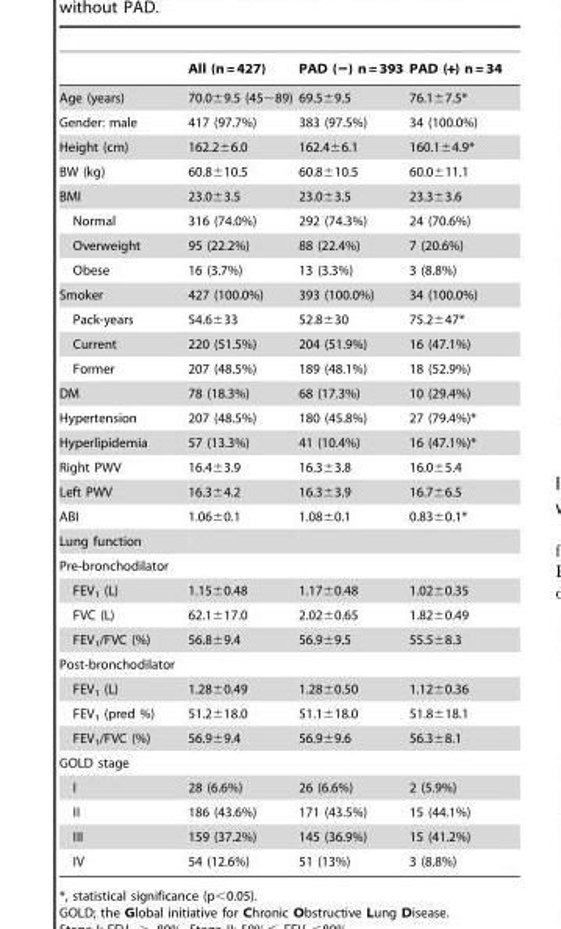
<table><thead><tr><td></td><td>All (n = 427)</td><td>PAD (−) n = 393</td><td>PAD (+) n = 34</td></tr></thead><tbody><tr><td>Age (years)</td><td>70.0±9.5 (45∼89)</td><td>69.5±9.5</td><td>76.1±7.5*</td></tr><tr><td>Gender: male</td><td>417 (97.7%)</td><td>383 (97.5%)</td><td>34 (100.0%)</td></tr><tr><td>Height (cm)</td><td>162.2±6.0</td><td>162.4±6.1</td><td>160.1±4.9*</td></tr><tr><td>BW (kg)</td><td>60.8±10.5</td><td>60.8±10.5</td><td>60.0±11.1</td></tr><tr><td>BMI</td><td>23.0±3.5</td><td>23.0±3.5</td><td>23.3±3.6</td></tr><tr><td>Normal</td><td>316 (74.0%)</td><td>292 (74.3%)</td><td>24 (70.6%)</td></tr><tr><td>Overweight</td><td>95 (22.2%)</td><td>88 (22.4%)</td><td>7 (20.6%)</td></tr><tr><td>Obese</td><td>16 (3.7%)</td><td>13 (3.3%)</td><td>3 (8.8%)</td></tr><tr><td>Smoker</td><td>427 (100.0%)</td><td>393 (100.0%)</td><td>34 (100.0%)</td></tr><tr><td>Pack-years</td><td>54.6±33</td><td>52.8±30</td><td>75.2±47*</td></tr><tr><td>Current</td><td>220 (51.5%)</td><td>204 (51.9%)</td><td>16 (47.1%)</td></tr><tr><td>Former</td><td>207 (48.5%)</td><td>189 (48.1%)</td><td>18 (52.9%)</td></tr><tr><td>DM</td><td>78 (18.3%)</td><td>68 (17.3%)</td><td>10 (29.4%)</td></tr><tr><td>Hypertension</td><td>207 (48.5%)</td><td>180 (45.8%)</td><td>27 (79.4%)*</td></tr><tr><td>Hyperlipidemia</td><td>57 (13.3%)</td><td>41 (10.4%)</td><td>16 (47.1%)*</td></tr><tr><td>Right PWV</td><td>16.4±3.9</td><td>16.3±3.8</td><td>16.0±5.4</td></tr><tr><td>Left PWV</td><td>16.3±4.2</td><td>16.3±3.9</td><td>16.7±6.5</td></tr><tr><td>ABI</td><td>1.06±0.1</td><td>1.08±0.1</td><td>0.83±0.1*</td></tr><tr><td colspan="4">Lung function</td></tr><tr><td colspan="4">Pre-bronchodilator</td></tr><tr><td>FEV<sub>1</sub> (L)</td><td>1.15±0.48</td><td>1.17±0.48</td><td>1.02±0.35</td></tr><tr><td>FVC (L)</td><td>62.1±17.0</td><td>2.02±0.65</td><td>1.82±0.49</td></tr><tr><td>FEV<sub>1</sub>/FVC (%)</td><td>56.8±9.4</td><td>56.9±9.5</td><td>55.5±8.3</td></tr><tr><td colspan="4">Post-bronchodilator</td></tr><tr><td>FEV<sub>1</sub> (L)</td><td>1.28±0.49</td><td>1.28±0.50</td><td>1.12±0.36</td></tr><tr><td>FEV<sub>1</sub> (pred %)</td><td>51.2±18.0</td><td>51.1±18.0</td><td>51.8±18.1</td></tr><tr><td>FEV<sub>1</sub>/FVC (%)</td><td>56.9±9.4</td><td>56.9±9.6</td><td>56.3±8.1</td></tr><tr><td colspan="4">GOLD stage</td></tr><tr><td>I</td><td>28 (6.6%)</td><td>26 (6.6%)</td><td>2 (5.9%)</td></tr><tr><td>II</td><td>186 (43.6%)</td><td>171 (43.5%)</td><td>15 (44.1%)</td></tr><tr><td>III</td><td>159 (37.2%)</td><td>145 (36.9%)</td><td>15 (41.2%)</td></tr><tr><td>IV</td><td>54 (12.6%)</td><td>51 (13%)</td><td>3 (8.8%)</td></tr></tbody></table>